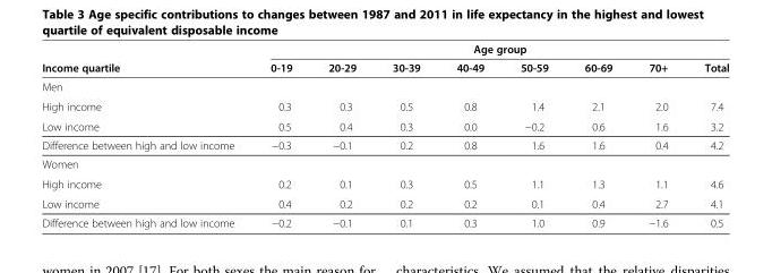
<table><thead><tr><td rowspan="2">Income quartile</td><td colspan="8">Age group</td></tr><tr><td>0-19</td><td>20-29</td><td>30-39</td><td>40-49</td><td>50-59</td><td>60-69</td><td>70+</td><td>Total</td></tr></thead><tbody><tr><td colspan="9">Men</td></tr><tr><td>High income</td><td>0.3</td><td>0.3</td><td>0.5</td><td>0.8</td><td>1.4</td><td>2.1</td><td>2.0</td><td>7.4</td></tr><tr><td>Low income</td><td>0.5</td><td>0.4</td><td>0.3</td><td>0.0</td><td>−0.2</td><td>0.6</td><td>1.6</td><td>3.2</td></tr><tr><td>Difference between high and low income</td><td>−0.3</td><td>−0.1</td><td>0.2</td><td>0.8</td><td>1.6</td><td>1.6</td><td>0.4</td><td>4.2</td></tr><tr><td colspan="9">Women</td></tr><tr><td>High income</td><td>0.2</td><td>0.1</td><td>0.3</td><td>0.5</td><td>1.1</td><td>1.3</td><td>1.1</td><td>4.6</td></tr><tr><td>Low income</td><td>0.4</td><td>0.2</td><td>0.2</td><td>0.2</td><td>0.1</td><td>0.4</td><td>2.7</td><td>4.1</td></tr><tr><td>Difference between high and low income</td><td>−0.2</td><td>−0.1</td><td>0.1</td><td>0.3</td><td>1.0</td><td>0.9</td><td>−1.6</td><td>0.5</td></tr></tbody></table>